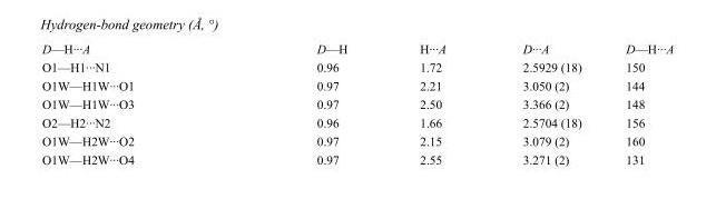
<table><tbody><tr><td>D—H···A</td><td>D—H</td><td>H···A</td><td>D···A</td><td>D—H···A</td></tr><tr><td>O1—H1···N1</td><td>0.96</td><td>1.72</td><td>2.5929 (18)</td><td>150</td></tr><tr><td>O1W—H1W···O1</td><td>0.97</td><td>2.21</td><td>3.050 (2)</td><td>144</td></tr><tr><td>O1W—H1W···O3</td><td>0.97</td><td>2.50</td><td>3.366 (2)</td><td>148</td></tr><tr><td>O2—H2···N2</td><td>0.96</td><td>1.66</td><td>2.5704 (18)</td><td>156</td></tr><tr><td>O1W—H2W···O2</td><td>0.97</td><td>2.15</td><td>3.079 (2)</td><td>160</td></tr><tr><td>O1W—H2W···O4</td><td>0.97</td><td>2.55</td><td>3.271 (2)</td><td>131</td></tr></tbody></table>